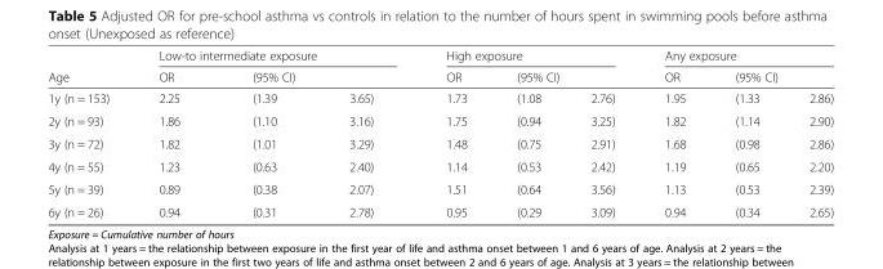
<table><thead><tr><td rowspan="3">Age 1y (n = 153)</td><td colspan="3">Low-to intermediate exposure</td><td colspan="3">High exposure</td><td colspan="3">Any exposure</td></tr><tr><td rowspan="2">OR 2.25</td><td colspan="2">(95% CI)</td><td rowspan="2">OR 1.73</td><td colspan="2">(95% CI)</td><td rowspan="2">OR 1.95</td><td colspan="2">(95% CI)</td></tr><tr><td>(1.39</td><td>3.65)</td><td>(1.08</td><td>2.76)</td><td>(1.33</td><td>2.86)</td></tr></thead><tbody><tr><td>2y (n = 93)</td><td>1.86</td><td>(1.10</td><td>3.16)</td><td>1.75</td><td>(0.94</td><td>3.25)</td><td>1.82</td><td>(1.14</td><td>2.90)</td></tr><tr><td>3y (n = 72)</td><td>1.82</td><td>(1.01</td><td>3.29)</td><td>1.48</td><td>(0.75</td><td>2.91)</td><td>1.68</td><td>(0.98</td><td>2.86)</td></tr><tr><td>4y (n = 55)</td><td>1.23</td><td>(0.63</td><td>2.40)</td><td>1.14</td><td>(0.53</td><td>2.42)</td><td>1.19</td><td>(0.65</td><td>2.20)</td></tr><tr><td>5y (n = 39)</td><td>0.89</td><td>(0.38</td><td>2.07)</td><td>1.51</td><td>(0.64</td><td>3.56)</td><td>1.13</td><td>(0.53</td><td>2.39)</td></tr><tr><td>6y (n = 26)</td><td>0.94</td><td>(0.31</td><td>2.78)</td><td>0.95</td><td>(0.29</td><td>3.09)</td><td>0.94</td><td>(0.34</td><td>2.65)</td></tr></tbody></table>